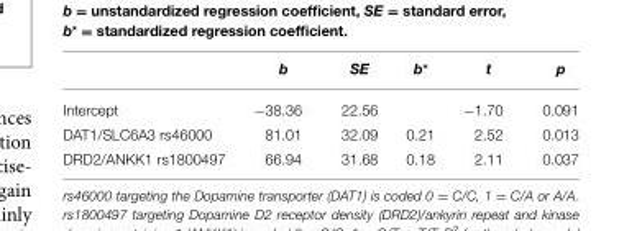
<table><thead><tr><td></td><td>b</td><td>SE</td><td>b*</td><td>t</td><td>p</td></tr></thead><tbody><tr><td>Intercept</td><td>−38.36</td><td>22.56</td><td></td><td>−1.70</td><td>0.091</td></tr><tr><td>DAT1/SLC6A3 rs46000</td><td>81.01</td><td>32.09</td><td>0.21</td><td>2.52</td><td>0.013</td></tr><tr><td>DRD2/ANKK1 rs1800497</td><td>66.94</td><td>31.68</td><td>0.18</td><td>2.11</td><td>0.037</td></tr></tbody></table>